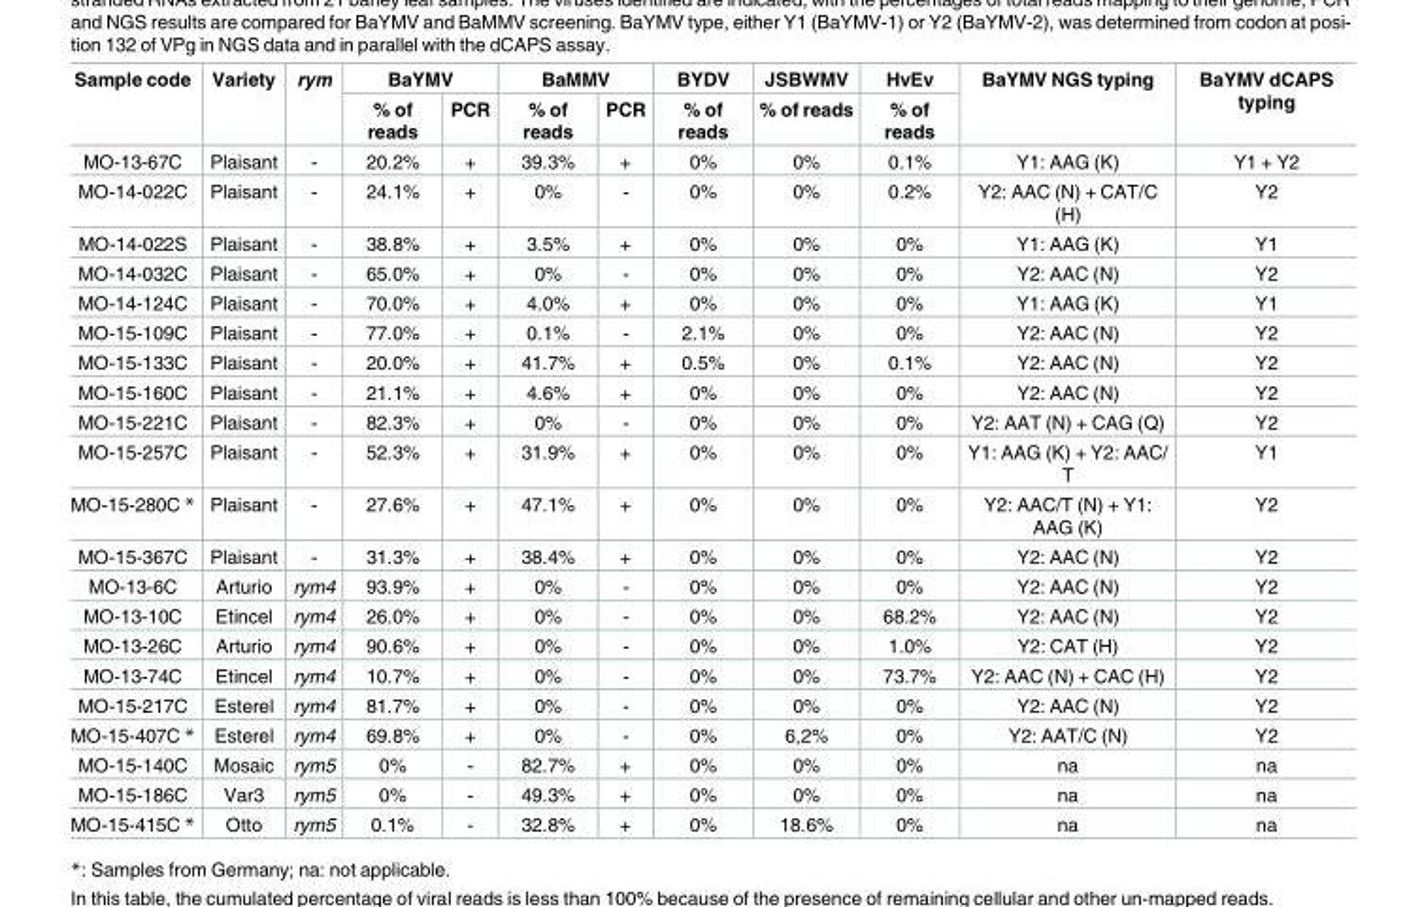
<table><thead><tr><td rowspan="2">Sample code</td><td rowspan="2">Variety</td><td rowspan="2">rym</td><td colspan="2">BaYMV</td><td colspan="2">BaMMV</td><td rowspan="2">BYDV % of reads</td><td rowspan="2">JSBWMV % of reads</td><td rowspan="2">HvEv % of reads</td><td rowspan="2">BaYMV NGS typing</td><td rowspan="2">BaYMV dCAPS typing</td></tr><tr><td>% of reads</td><td>PCR</td><td>% of reads</td><td>PCR</td></tr></thead><tbody><tr><td>MO-13-67C</td><td>Plaisant</td><td>-</td><td>20.2%</td><td>+</td><td>39.3%</td><td>+</td><td>0%</td><td>0%</td><td>0.1%</td><td>Y1: AAG (K)</td><td>Y1 + Y2</td></tr><tr><td>MO-14-022C</td><td>Plaisant</td><td>-</td><td>24.1%</td><td>+</td><td>0%</td><td>-</td><td>0%</td><td>0%</td><td>0.2%</td><td>Y2: AAC (N) + CAT/C (H)</td><td>Y2</td></tr><tr><td>MO-14-022S</td><td>Plaisant</td><td>-</td><td>38.8%</td><td>+</td><td>3.5%</td><td>+</td><td>0%</td><td>0%</td><td>0%</td><td>Y1: AAG (K)</td><td>Y1</td></tr><tr><td>MO-14-032C</td><td>Plaisant</td><td>-</td><td>65.0%</td><td>+</td><td>0%</td><td>-</td><td>0%</td><td>0%</td><td>0%</td><td>Y2: AAC (N)</td><td>Y2</td></tr><tr><td>MO-14-124C</td><td>Plaisant</td><td>-</td><td>70.0%</td><td>+</td><td>4.0%</td><td>+</td><td>0%</td><td>0%</td><td>0%</td><td>Y1: AAG (K)</td><td>Y1</td></tr><tr><td>MO-15-109C</td><td>Plaisant</td><td>-</td><td>77.0%</td><td>+</td><td>0.1%</td><td>-</td><td>2.1%</td><td>0%</td><td>0%</td><td>Y2: AAC (N)</td><td>Y2</td></tr><tr><td>MO-15-133C</td><td>Plaisant</td><td>-</td><td>20.0%</td><td>+</td><td>41.7%</td><td>+</td><td>0.5%</td><td>0%</td><td>0.1%</td><td>Y2: AAC (N)</td><td>Y2</td></tr><tr><td>MO-15-160C</td><td>Plaisant</td><td>-</td><td>21.1%</td><td>+</td><td>4.6%</td><td>+</td><td>0%</td><td>0%</td><td>0%</td><td>Y2: AAC (N)</td><td>Y2</td></tr><tr><td>MO-15-221C</td><td>Plaisant</td><td>-</td><td>82.3%</td><td>+</td><td>0%</td><td>-</td><td>0%</td><td>0%</td><td>0%</td><td>Y2: AAT (N) + CAG (Q)</td><td>Y2</td></tr><tr><td>MO-15-257C</td><td>Plaisant</td><td>-</td><td>52.3%</td><td>+</td><td>31.9%</td><td>+</td><td>0%</td><td>0%</td><td>0%</td><td>Y1: AAG (K) + Y2: AAC/ T</td><td>Y1</td></tr><tr><td>MO-15-280C *</td><td>Plaisant</td><td>-</td><td>27.6%</td><td>+</td><td>47.1%</td><td>+</td><td>0%</td><td>0%</td><td>0%</td><td>Y2: AAC/T (N) + Y1: AAG (K)</td><td>Y2</td></tr><tr><td>MO-15-367C</td><td>Plaisant</td><td>-</td><td>31.3%</td><td>+</td><td>38.4%</td><td>+</td><td>0%</td><td>0%</td><td>0%</td><td>Y2: AAC (N)</td><td>Y2</td></tr><tr><td>MO-13-6C</td><td>Arturio</td><td>rym4</td><td>93.9%</td><td>+</td><td>0%</td><td>-</td><td>0%</td><td>0%</td><td>0%</td><td>Y2: AAC (N)</td><td>Y2</td></tr><tr><td>MO-13-10C</td><td>Etincel</td><td>rym4</td><td>26.0%</td><td>+</td><td>0%</td><td>-</td><td>0%</td><td>0%</td><td>68.2%</td><td>Y2: AAC (N)</td><td>Y2</td></tr><tr><td>MO-13-26C</td><td>Arturio</td><td>rym4</td><td>90.6%</td><td>+</td><td>0%</td><td>-</td><td>0%</td><td>0%</td><td>1.0%</td><td>Y2: CAT (H)</td><td>Y2</td></tr><tr><td>MO-13-74C</td><td>Etincel</td><td>rym4</td><td>10.7%</td><td>+</td><td>0%</td><td>-</td><td>0%</td><td>0%</td><td>73.7%</td><td>Y2: AAC (N) + CAC (H)</td><td>Y2</td></tr><tr><td>MO-15-217C</td><td>Esterel</td><td>rym4</td><td>81.7%</td><td>+</td><td>0%</td><td>-</td><td>0%</td><td>0%</td><td>0%</td><td>Y2: AAC (N)</td><td>Y2</td></tr><tr><td>MO-15-407C *</td><td>Esterel</td><td>rym4</td><td>69.8%</td><td>+</td><td>0%</td><td>-</td><td>0%</td><td>6,2%</td><td>0%</td><td>Y2: AAT/C (N)</td><td>Y2</td></tr><tr><td>MO-15-140C</td><td>Mosaic</td><td>rym5</td><td>0%</td><td>-</td><td>82.7%</td><td>+</td><td>0%</td><td>0%</td><td>0%</td><td>na</td><td>na</td></tr><tr><td>MO-15-186C</td><td>Var3</td><td>rym5</td><td>0%</td><td>-</td><td>49.3%</td><td>+</td><td>0%</td><td>0%</td><td>0%</td><td>na</td><td>na</td></tr><tr><td>MO-15-415C *</td><td>Otto</td><td>rym5</td><td>0.1%</td><td>-</td><td>32.8%</td><td>+</td><td>0%</td><td>18.6%</td><td>0%</td><td>na</td><td>na</td></tr></tbody></table>